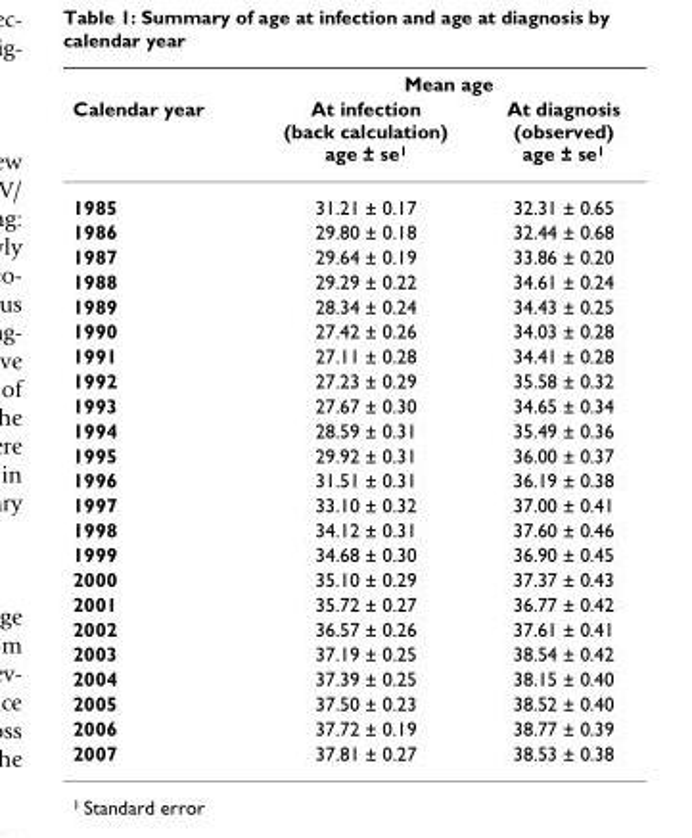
<table><thead><tr><td rowspan="2">Calendar year</td><td colspan="2">Mean age</td></tr><tr><td>At infection (back calculation) age ± se<sup>1</sup></td><td>At diagnosis (observed) age ± se<sup>1</sup></td></tr></thead><tbody><tr><td>1985</td><td>31.21 ± 0.17</td><td>32.31 ± 0.65</td></tr><tr><td>1986</td><td>29.80 ± 0.18</td><td>32.44 ± 0.68</td></tr><tr><td>1987</td><td>29.64 ± 0.19</td><td>33.86 ± 0.20</td></tr><tr><td>1988</td><td>29.29 ± 0.22</td><td>34.61 ± 0.24</td></tr><tr><td>1989</td><td>28.34 ± 0.24</td><td>34.43 ± 0.25</td></tr><tr><td>1990</td><td>27.42 ± 0.26</td><td>34.03 ± 0.28</td></tr><tr><td>1991</td><td>27.11 ± 0.28</td><td>34.41 ± 0.28</td></tr><tr><td>1992</td><td>27.23 ± 0.29</td><td>35.58 ± 0.32</td></tr><tr><td>1993</td><td>27.67 ± 0.30</td><td>34.65 ± 0.34</td></tr><tr><td>1994</td><td>28.59 ± 0.31</td><td>35.49 ± 0.36</td></tr><tr><td>1995</td><td>29.92 ± 0.31</td><td>36.00 ± 0.37</td></tr><tr><td>1996</td><td>31.51 ± 0.31</td><td>36.19 ± 0.38</td></tr><tr><td>1997</td><td>33.10 ± 0.32</td><td>37.00 ± 0.41</td></tr><tr><td>1998</td><td>34.12 ± 0.31</td><td>37.60 ± 0.46</td></tr><tr><td>1999</td><td>34.68 ± 0.30</td><td>36.90 ± 0.45</td></tr><tr><td>2000</td><td>35.10 ± 0.29</td><td>37.37 ± 0.43</td></tr><tr><td>2001</td><td>35.72 ± 0.27</td><td>36.77 ± 0.42</td></tr><tr><td>2002</td><td>36.57 ± 0.26</td><td>37.61 ± 0.41</td></tr><tr><td>2003</td><td>37.19 ± 0.25</td><td>38.54 ± 0.42</td></tr><tr><td>2004</td><td>37.39 ± 0.25</td><td>38.15 ± 0.40</td></tr><tr><td>2005</td><td>37.50 ± 0.23</td><td>38.52 ± 0.40</td></tr><tr><td>2006</td><td>37.72 ± 0.19</td><td>38.77 ± 0.39</td></tr><tr><td>2007</td><td>37.81 ± 0.27</td><td>38.53 ± 0.38</td></tr></tbody></table>